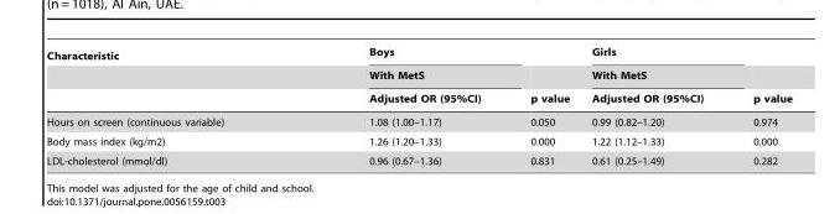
<table><thead><tr><td rowspan="3">Characteristic</td><td rowspan="3">Boys With MetS Adjusted OR (95%CI)</td><td rowspan="3">p value</td><td rowspan="3">Girls With MetS Adjusted OR (95%CI)</td><td rowspan="3">p value</td></tr><tr></tr><tr></tr></thead><tbody><tr><td>Hours on screen (continuous variable)</td><td>1.08 (1.00–1.17)</td><td>0.050</td><td>0.99 (0.82–1.20)</td><td>0.974</td></tr><tr><td>Body mass index (kg/m2)</td><td>1.26 (1.20–1.33)</td><td>0.000</td><td>1.22 (1.12–1.33)</td><td>0.000</td></tr><tr><td>LDL-cholesterol (mmol/dl)</td><td>0.96 (0.67–1.36)</td><td>0.831</td><td>0.61 (0.25–1.49)</td><td>0.282</td></tr></tbody></table>